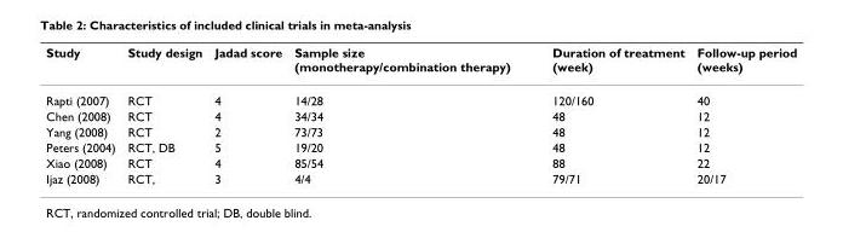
<table><thead><tr><td>Study</td><td>Study design</td><td>Jadad score</td><td>Sample size (monotherapy/combination therapy)</td><td>Duration of treatment (week)</td><td>Follow-up period (weeks)</td></tr></thead><tbody><tr><td>Rapti (2007)</td><td>RCT</td><td>4</td><td>14/28</td><td>120/160</td><td>40</td></tr><tr><td>Chen (2008)</td><td>RCT</td><td>4</td><td>34/34</td><td>48</td><td>12</td></tr><tr><td>Yang (2008)</td><td>RCT</td><td>2</td><td>73/73</td><td>48</td><td>12</td></tr><tr><td>Peters (2004)</td><td>RCT, DB</td><td>5</td><td>19/20</td><td>48</td><td>12</td></tr><tr><td>Xiao (2008)</td><td>RCT</td><td>4</td><td>85/54</td><td>88</td><td>22</td></tr><tr><td>Ijaz (2008)</td><td>RCT,</td><td>3</td><td>4/4</td><td>79/71</td><td>20/17</td></tr></tbody></table>